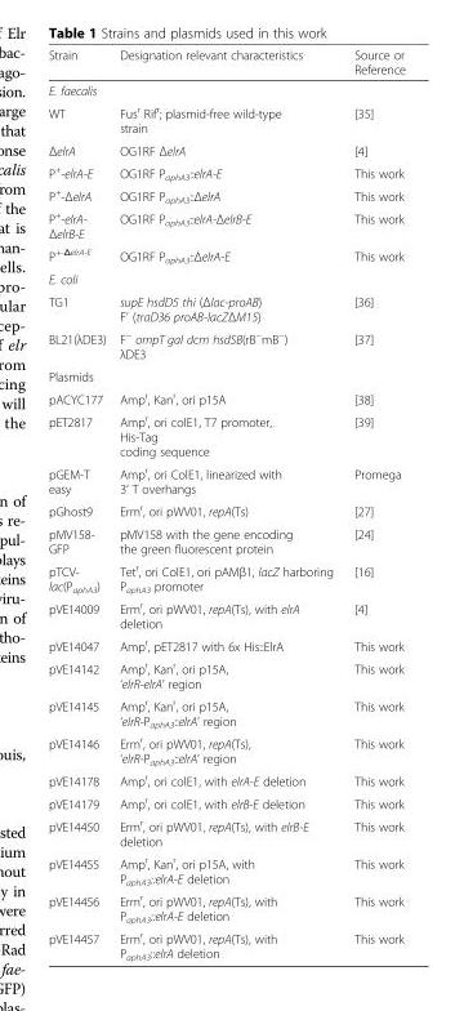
<table><thead><tr><td>Strain</td><td>Designation relevant characteristics</td><td>Source or Reference</td></tr></thead><tbody><tr><td colspan="3">E. faecalis</td></tr><tr><td>WT</td><td>Fus<sup>r</sup> Rif<sup>r</sup>; plasmid-free wild-type strain</td><td>[35]</td></tr><tr><td>ΔelrA</td><td>OG1RF ΔelrA</td><td>[4]</td></tr><tr><td>P<sup>+</sup>-elrA-E</td><td>OG1RF P<sub>aphA3</sub>::elrA-E</td><td>This work</td></tr><tr><td>P<sup>+</sup>-ΔelrA</td><td>OG1RF P<sub>aphA3</sub>::ΔelrA</td><td>This work</td></tr><tr><td>P<sup>+</sup>-elrA- ΔelrB-E</td><td>OG1RF P<sub>aphA3</sub>::elrA-ΔelrB-E</td><td>This work</td></tr><tr><td>P<sup>+-ΔelrA-E</sup></td><td>OG1RF P<sub>aphA3</sub>::ΔelrA-E</td><td>This work</td></tr><tr><td colspan="3">E. coli</td></tr><tr><td>TG1</td><td>supE hsdD5 thi (Δlac-proAB) F’ (traD36 proAB-lacZΔM15)</td><td>[36]</td></tr><tr><td>BL21(λDE3)</td><td>F<sup>−</sup> ompT gal dcm hsdSB(rB<sup>−</sup>mB<sup>−</sup>) λDE3</td><td>[37]</td></tr><tr><td colspan="3">Plasmids</td></tr><tr><td>pACYC177</td><td>Amp<sup>r</sup>, Kan<sup>r</sup>, ori p15A</td><td>[38]</td></tr><tr><td>pET2817</td><td>Amp<sup>r</sup>, ori colE1, T7 promoter, His-Tag coding sequence</td><td>[39]</td></tr><tr><td>pGEM-T easy</td><td>Amp<sup>r</sup>, ori ColE1, linearized with 3’ T overhangs</td><td>Promega</td></tr><tr><td>pGhost9</td><td>Erm<sup>r</sup>, ori pWV01, repA(Ts)</td><td>[27]</td></tr><tr><td>pMV158- GFP</td><td>pMV158 with the gene encoding the green fluorescent protein</td><td>[24]</td></tr><tr><td>pTCV- lac(P<sub>aphA3</sub>)</td><td>Tet<sup>r</sup>, ori ColE1, ori pAMβ1, lacZ harboring P<sub>aphA3</sub> promoter</td><td>[16]</td></tr><tr><td>pVE14009</td><td>Erm<sup>r</sup>, ori pWV01, repA(Ts), with elrA deletion</td><td>[4]</td></tr><tr><td>pVE14047</td><td>Amp<sup>r</sup>, pET2817 with 6x His::ElrA</td><td>This work</td></tr><tr><td>pVE14142</td><td>Amp<sup>r</sup>, Kan<sup>r</sup>, ori p15A, ‘elrR-elrA’ region</td><td>This work</td></tr><tr><td>pVE14145</td><td>Amp<sup>r</sup>, Kan<sup>r</sup>, ori p15A, ‘elrR-P<sub>aphA3</sub>::elrA’ region</td><td>This work</td></tr><tr><td>pVE14146</td><td>Erm<sup>r</sup>, ori pWV01, repA(Ts), ‘elrR-P<sub>aphA3</sub>::elrA’ region</td><td>This work</td></tr><tr><td>pVE14178</td><td>Amp<sup>r</sup>, ori colE1, with elrA-E deletion</td><td>This work</td></tr><tr><td>pVE14179</td><td>Amp<sup>r</sup>, ori colE1, with elrB-E deletion</td><td>This work</td></tr><tr><td>pVE14450</td><td>Erm<sup>r</sup>, ori pWV01, repA(Ts), with elrB-E deletion</td><td>This work</td></tr><tr><td>pVE14455</td><td>Amp<sup>r</sup>, Kan<sup>r</sup>, ori p15A, with P<sub>aphA3</sub>::elrA-E deletion</td><td>This work</td></tr><tr><td>pVE14456</td><td>Erm<sup>r</sup>, ori pWV01, repA(Ts), with P<sub>aphA3</sub>::elrA-E deletion</td><td>This work</td></tr><tr><td>pVE14457</td><td>Erm<sup>r</sup>, ori pWV01, repA(Ts), with P<sub>aphA3</sub>::elrA deletion</td><td>This work</td></tr></tbody></table>